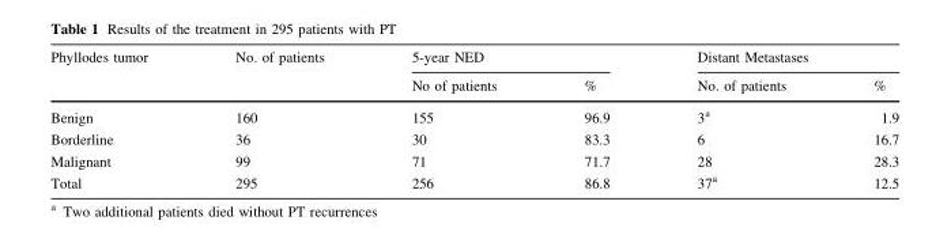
<table><thead><tr><td rowspan="2">Phyllodes tumor</td><td rowspan="2">No. of patients</td><td colspan="2">5-year NED</td><td colspan="2">Distant Metastases</td></tr><tr><td>No of patients</td><td>%</td><td>No. of patients</td><td>%</td></tr></thead><tbody><tr><td>Benign</td><td>160</td><td>155</td><td>96.9</td><td>3<sup>a</sup></td><td>1.9</td></tr><tr><td>Borderline</td><td>36</td><td>30</td><td>83.3</td><td>6</td><td>16.7</td></tr><tr><td>Malignant</td><td>99</td><td>71</td><td>71.7</td><td>28</td><td>28.3</td></tr><tr><td>Total</td><td>295</td><td>256</td><td>86.8</td><td>37<sup>a</sup></td><td>12.5</td></tr></tbody></table>